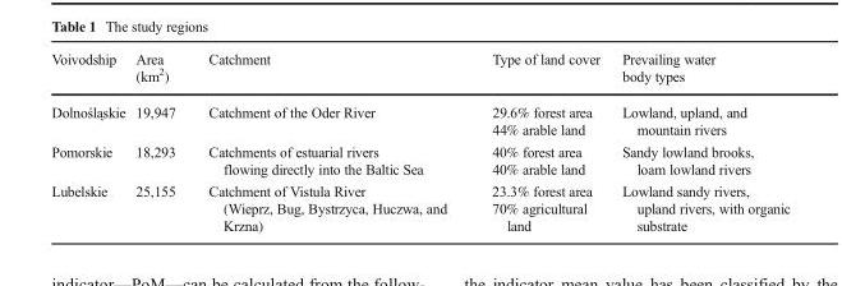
<table><thead><tr><td>Voivodship</td><td>Area (km<sup>2</sup>)</td><td>Catchment</td><td>Type of land cover</td><td>Prevailing water body types</td></tr></thead><tbody><tr><td>Dolnośląskie</td><td>19,947</td><td>Catchment of the Oder River</td><td>29.6% forest area 44% arable land</td><td>Lowland, upland, and mountain rivers</td></tr><tr><td>Pomorskie</td><td>18,293</td><td>Catchments of estuarial rivers flowing directly into the Baltic Sea</td><td>40% forest area 40% arable land</td><td>Sandy lowland brooks, loam lowland rivers</td></tr><tr><td>Lubelskie</td><td>25,155</td><td>Catchment of Vistula River (Wieprz, Bug, Bystrzyca, Huczwa, and Krzna)</td><td>23.3% forest area 70% agricultural land</td><td>Lowland sandy rivers, upland rivers, with organic substrate</td></tr></tbody></table>